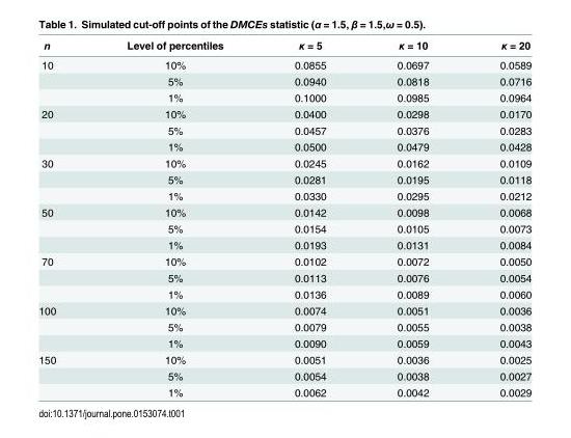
<table><thead><tr><td>n</td><td>Level of percentiles</td><td>κ = 5</td><td>κ = 10</td><td>κ = 20</td></tr></thead><tbody><tr><td rowspan="3">10</td><td>10%</td><td>0.0855</td><td>0.0697</td><td>0.0589</td></tr><tr><td>5%</td><td>0.0940</td><td>0.0818</td><td>0.0716</td></tr><tr><td>1%</td><td>0.1000</td><td>0.0985</td><td>0.0964</td></tr><tr><td rowspan="3">20</td><td>10%</td><td>0.0400</td><td>0.0298</td><td>0.0170</td></tr><tr><td>5%</td><td>0.0457</td><td>0.0376</td><td>0.0283</td></tr><tr><td>1%</td><td>0.0500</td><td>0.0479</td><td>0.0428</td></tr><tr><td rowspan="3">30</td><td>10%</td><td>0.0245</td><td>0.0162</td><td>0.0109</td></tr><tr><td>5%</td><td>0.0281</td><td>0.0195</td><td>0.0118</td></tr><tr><td>1%</td><td>0.0330</td><td>0.0295</td><td>0.0212</td></tr><tr><td rowspan="3">50</td><td>10%</td><td>0.0142</td><td>0.0098</td><td>0.0068</td></tr><tr><td>5%</td><td>0.0154</td><td>0.0105</td><td>0.0073</td></tr><tr><td>1%</td><td>0.0193</td><td>0.0131</td><td>0.0084</td></tr><tr><td rowspan="3">70</td><td>10%</td><td>0.0102</td><td>0.0072</td><td>0.0050</td></tr><tr><td>5%</td><td>0.0113</td><td>0.0076</td><td>0.0054</td></tr><tr><td>1%</td><td>0.0136</td><td>0.0089</td><td>0.0060</td></tr><tr><td rowspan="3">100</td><td>10%</td><td>0.0074</td><td>0.0051</td><td>0.0036</td></tr><tr><td>5%</td><td>0.0079</td><td>0.0055</td><td>0.0038</td></tr><tr><td>1%</td><td>0.0090</td><td>0.0059</td><td>0.0043</td></tr><tr><td rowspan="3">150</td><td>10%</td><td>0.0051</td><td>0.0036</td><td>0.0025</td></tr><tr><td>5%</td><td>0.0054</td><td>0.0038</td><td>0.0027</td></tr><tr><td>1%</td><td>0.0062</td><td>0.0042</td><td>0.0029</td></tr></tbody></table>